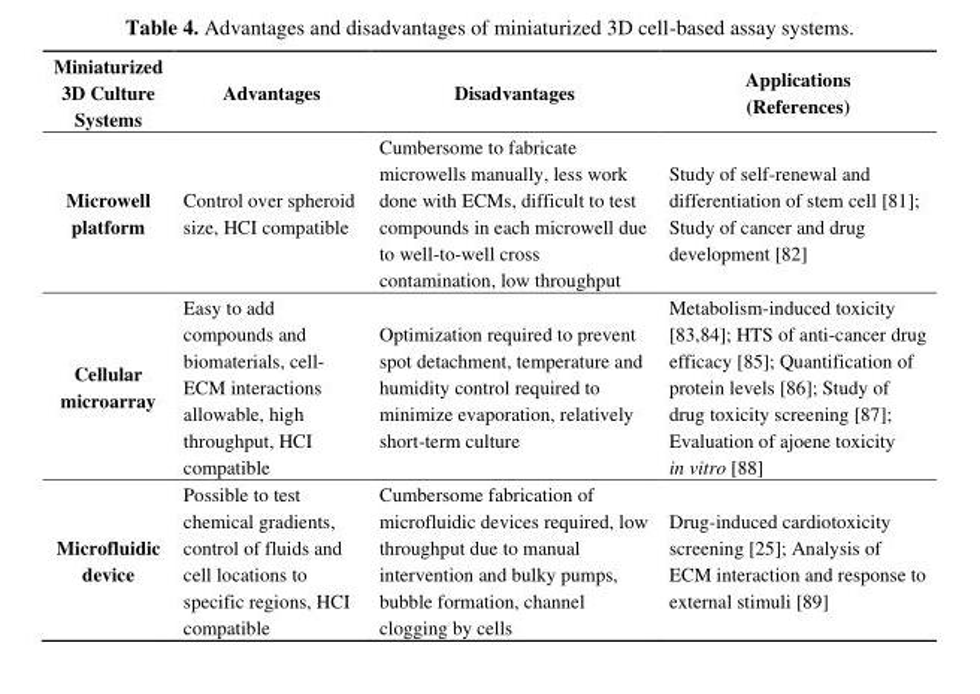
<table><thead><tr><td>Miniaturized 3D Culture Systems</td><td>Advantages</td><td>Disadvantages</td><td>Applications (References)</td></tr></thead><tbody><tr><td>Microwell platform</td><td>Control over spheroid size, HCI compatible</td><td>Cumbersome to fabricate microwells manually, less work done with ECMs, difficult to test compounds in each microwell due to well-to-well cross contamination, low throughput</td><td>Study of self-renewal and differentiation of stem cell [81]; Study of cancer and drug development [82]</td></tr><tr><td>Cellular microarray</td><td>Easy to add compounds and biomaterials, cell- ECM interactions allowable, high throughput, HCI compatible</td><td>Optimization required to prevent spot detachment, temperature and humidity control required to minimize evaporation, relatively short-term culture</td><td>Metabolism-induced toxicity [83,84]; HTS of anti-cancer drug efficacy [85]; Quantification of protein levels [86]; Study of drug toxicity screening [87]; Evaluation of ajoene toxicity in vitro [88]</td></tr><tr><td>Microfluidic device</td><td>Possible to test chemical gradients, control of fluids and cell locations to specific regions, HCI compatible</td><td>Cumbersome fabrication of microfluidic devices required, low throughput due to manual intervention and bulky pumps, bubble formation, channel clogging by cells</td><td>Drug-induced cardiotoxicity screening [25]; Analysis of ECM interaction and response to external stimuli [89]</td></tr></tbody></table>